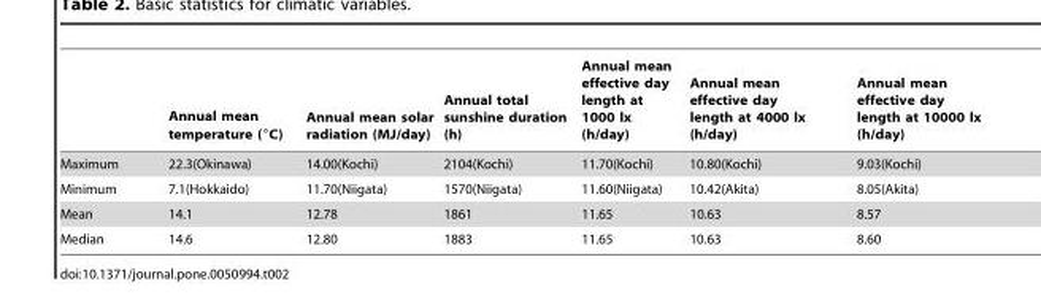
<table><thead><tr><td></td><td>Annual mean temperature (°C)</td><td>Annual mean solar radiation (MJ/day)</td><td>Annual total sunshine duration (h)</td><td>Annual mean effective day length at 1000 lx (h/day)</td><td>Annual mean effective day length at 4000 lx (h/day)</td><td>Annual mean effective day length at 10000 lx (h/day)</td></tr></thead><tbody><tr><td>Maximum</td><td>22.3(Okinawa)</td><td>14.00(Kochi)</td><td>2104(Kochi)</td><td>11.70(Kochi)</td><td>10.80(Kochi)</td><td>9.03(Kochi)</td></tr><tr><td>Minimum</td><td>7.1(Hokkaido)</td><td>11.70(Niigata)</td><td>1570(Niigata)</td><td>11.60(Niigata)</td><td>10.42(Akita)</td><td>8.05(Akita)</td></tr><tr><td>Mean</td><td>14.1</td><td>12.78</td><td>1861</td><td>11.65</td><td>10.63</td><td>8.57</td></tr><tr><td>Median</td><td>14.6</td><td>12.80</td><td>1883</td><td>11.65</td><td>10.63</td><td>8.60</td></tr></tbody></table>